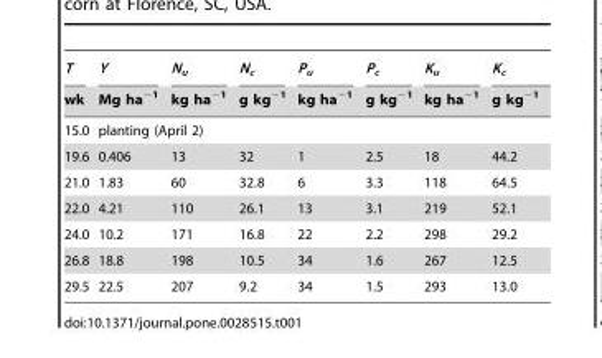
<table><thead><tr><td rowspan="2">T wk</td><td rowspan="2">Y Mg ha<sup>−1</sup></td><td rowspan="2">N<sub>u</sub> kg ha<sup>−1</sup></td><td rowspan="2">N<sub>c</sub> g kg<sup>−1</sup></td><td rowspan="2">P<sub>u</sub> kg ha<sup>−1</sup></td><td rowspan="2">P<sub>c</sub> g kg<sup>−1</sup></td><td rowspan="2">K<sub>u</sub> kg ha<sup>−1</sup></td><td rowspan="2">K<sub>c</sub> g kg<sup>−1</sup></td></tr><tr></tr></thead><tbody><tr><td>15.0</td><td colspan="2">planting (April 2)</td><td></td><td></td><td></td><td></td><td></td></tr><tr><td>19.6</td><td>0.406</td><td>13</td><td>32</td><td>1</td><td>2.5</td><td>18</td><td>44.2</td></tr><tr><td>21.0</td><td>1.83</td><td>60</td><td>32.8</td><td>6</td><td>3.3</td><td>118</td><td>64.5</td></tr><tr><td>22.0</td><td>4.21</td><td>110</td><td>26.1</td><td>13</td><td>3.1</td><td>219</td><td>52.1</td></tr><tr><td>24.0</td><td>10.2</td><td>171</td><td>16.8</td><td>22</td><td>2.2</td><td>298</td><td>29.2</td></tr><tr><td>26.8</td><td>18.8</td><td>198</td><td>10.5</td><td>34</td><td>1.6</td><td>267</td><td>12.5</td></tr><tr><td>29.5</td><td>22.5</td><td>207</td><td>9.2</td><td>34</td><td>1.5</td><td>293</td><td>13.0</td></tr></tbody></table>